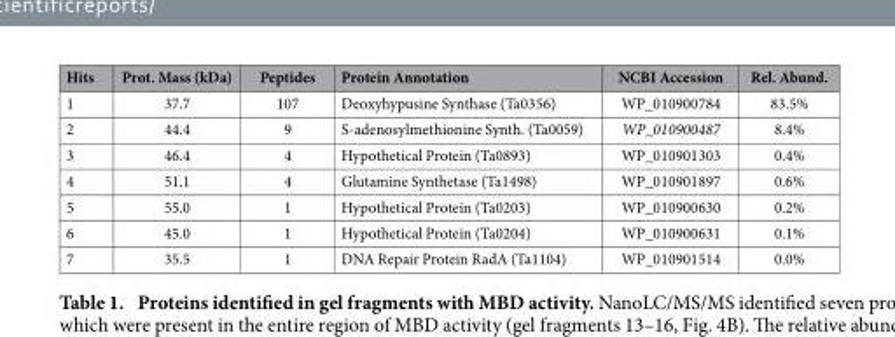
<table><thead><tr><td>Hits</td><td>Prot. Mass (kDa)</td><td>Peptides</td><td>Protein Annotation</td><td>NCBI Accession</td><td>Rel. Abund.</td></tr></thead><tbody><tr><td>1</td><td>37.7</td><td>107</td><td>Deoxyhypusine Synthase (Ta0356)</td><td>WP_010900784</td><td>83.5%</td></tr><tr><td>2</td><td>44.4</td><td>9</td><td>S-adenosylmethionine Synth. (Ta0059)</td><td>WP_010900487</td><td>8.4%</td></tr><tr><td>3</td><td>46.4</td><td>4</td><td>Hypothetical Protein (Ta0893)</td><td>WP_010901303</td><td>0.4%</td></tr><tr><td>4</td><td>51.1</td><td>4</td><td>Glutamine Synthetase (Ta1498)</td><td>WP_010901897</td><td>0.6%</td></tr><tr><td>5</td><td>55.0</td><td>1</td><td>Hypothetical Protein (Ta0203)</td><td>WP_010900630</td><td>0.2%</td></tr><tr><td>6</td><td>45.0</td><td>1</td><td>Hypothetical Protein (Ta0204)</td><td>WP_010900631</td><td>0.1%</td></tr><tr><td>7</td><td>35.5</td><td>1</td><td>DNA Repair Protein RadA (Ta1104)</td><td>WP_010901514</td><td>0.0%</td></tr></tbody></table>